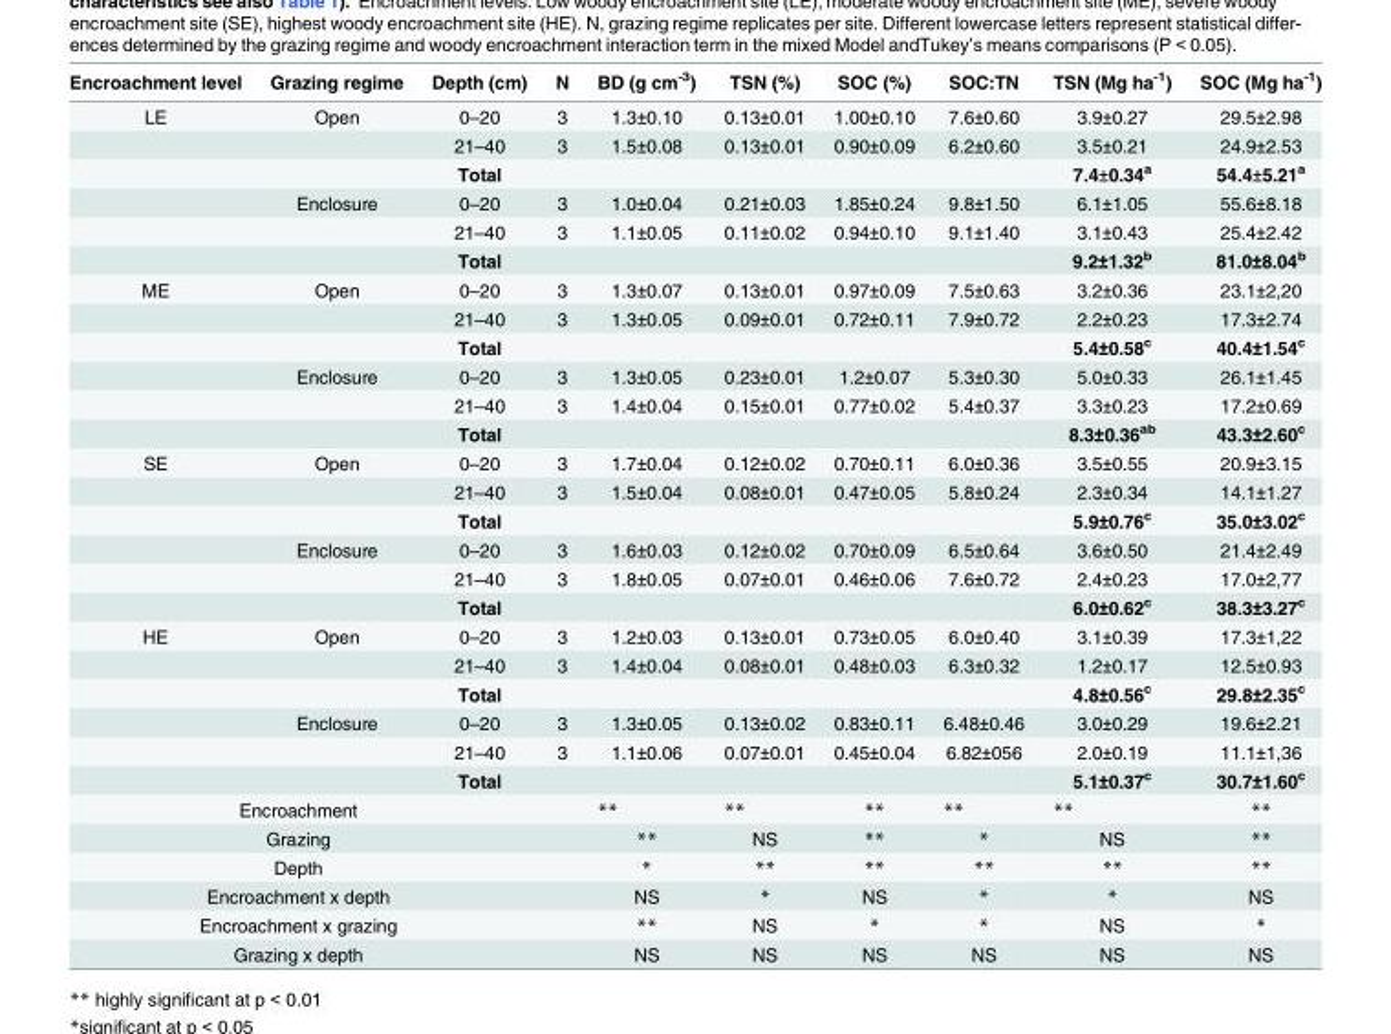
<table><thead><tr><td>Encroachment level</td><td>Grazing regime</td><td>Depth (cm)</td><td>N</td><td>BD (g cm<sup>-3</sup>)</td><td>TSN (%)</td><td>SOC (%)</td><td>SOC:TN</td><td>TSN (Mg ha<sup>-1</sup>)</td><td>SOC (Mg ha<sup>-1</sup>)</td></tr></thead><tbody><tr><td rowspan="6">LE</td><td>Open</td><td>0–20</td><td>3</td><td>1.3±0.10</td><td>0.13±0.01</td><td>1.00±0.10</td><td>7.6±0.60</td><td>3.9±0.27</td><td>29.5±2.98</td></tr><tr><td></td><td>21–40</td><td>3</td><td>1.5±0.08</td><td>0.13±0.01</td><td>0.90±0.09</td><td>6.2±0.60</td><td>3.5±0.21</td><td>24.9±2.53</td></tr><tr><td></td><td>Total</td><td></td><td></td><td></td><td></td><td></td><td>7.4±0.34<sup>a</sup></td><td>54.4±5.21<sup>a</sup></td></tr><tr><td>Enclosure</td><td>0–20</td><td>3</td><td>1.0±0.04</td><td>0.21±0.03</td><td>1.85±0.24</td><td>9.8±1.50</td><td>6.1±1.05</td><td>55.6±8.18</td></tr><tr><td></td><td>21–40</td><td>3</td><td>1.1±0.05</td><td>0.11±0.02</td><td>0.94±0.10</td><td>9.1±1.40</td><td>3.1±0.43</td><td>25.4±2.42</td></tr><tr><td></td><td>Total</td><td></td><td></td><td></td><td></td><td></td><td>9.2±1.32<sup>b</sup></td><td>81.0±8.04<sup>b</sup></td></tr><tr><td rowspan="6">ME</td><td>Open</td><td>0–20</td><td>3</td><td>1.3±0.07</td><td>0.13±0.01</td><td>0.97±0.09</td><td>7.5±0.63</td><td>3.2±0.36</td><td>23.1±2,20</td></tr><tr><td></td><td>21–40</td><td>3</td><td>1.3±0.05</td><td>0.09±0.01</td><td>0.72±0.11</td><td>7.9±0.72</td><td>2.2±0.23</td><td>17.3±2.74</td></tr><tr><td></td><td>Total</td><td></td><td></td><td></td><td></td><td></td><td>5.4±0.58<sup>c</sup></td><td>40.4±1.54<sup>c</sup></td></tr><tr><td>Enclosure</td><td>0–20</td><td>3</td><td>1.3±0.05</td><td>0.23±0.01</td><td>1.2±0.07</td><td>5.3±0.30</td><td>5.0±0.33</td><td>26.1±1.45</td></tr><tr><td></td><td>21–40</td><td>3</td><td>1.4±0.04</td><td>0.15±0.01</td><td>0.77±0.02</td><td>5.4±0.37</td><td>3.3±0.23</td><td>17.2±0.69</td></tr><tr><td></td><td>Total</td><td></td><td></td><td></td><td></td><td></td><td>8.3±0.36<sup>ab</sup></td><td>43.3±2.60<sup>c</sup></td></tr><tr><td rowspan="6">SE</td><td>Open</td><td>0–20</td><td>3</td><td>1.7±0.04</td><td>0.12±0.02</td><td>0.70±0.11</td><td>6.0±0.36</td><td>3.5±0.55</td><td>20.9±3.15</td></tr><tr><td></td><td>21–40</td><td>3</td><td>1.5±0.04</td><td>0.08±0.01</td><td>0.47±0.05</td><td>5.8±0.24</td><td>2.3±0.34</td><td>14.1±1.27</td></tr><tr><td></td><td>Total</td><td></td><td></td><td></td><td></td><td></td><td>5.9±0.76<sup>c</sup></td><td>35.0±3.02<sup>c</sup></td></tr><tr><td>Enclosure</td><td>0–20</td><td>3</td><td>1.6±0.03</td><td>0.12±0.02</td><td>0.70±0.09</td><td>6.5±0.64</td><td>3.6±0.50</td><td>21.4±2.49</td></tr><tr><td></td><td>21–40</td><td>3</td><td>1.8±0.05</td><td>0.07±0.01</td><td>0.46±0.06</td><td>7.6±0.72</td><td>2.4±0.23</td><td>17.0±2,77</td></tr><tr><td></td><td>Total</td><td></td><td></td><td></td><td></td><td></td><td>6.0±0.62<sup>c</sup></td><td>38.3±3.27<sup>c</sup></td></tr><tr><td rowspan="6">HE</td><td>Open</td><td>0–20</td><td>3</td><td>1.2±0.03</td><td>0.13±0.01</td><td>0.73±0.05</td><td>6.0±0.40</td><td>3.1±0.39</td><td>17.3±1,22</td></tr><tr><td></td><td>21–40</td><td>3</td><td>1.4±0.04</td><td>0.08±0.01</td><td>0.48±0.03</td><td>6.3±0.32</td><td>1.2±0.17</td><td>12.5±0.93</td></tr><tr><td></td><td>Total</td><td></td><td></td><td></td><td></td><td></td><td>4.8±0.56<sup>c</sup></td><td>29.8±2.35<sup>c</sup></td></tr><tr><td>Enclosure</td><td>0–20</td><td>3</td><td>1.3±0.05</td><td>0.13±0.02</td><td>0.83±0.11</td><td>6.48±0.46</td><td>3.0±0.29</td><td>19.6±2.21</td></tr><tr><td></td><td>21–40</td><td>3</td><td>1.1±0.06</td><td>0.07±0.01</td><td>0.45±0.04</td><td>6.82±056</td><td>2.0±0.19</td><td>11.1±1,36</td></tr><tr><td></td><td>Total</td><td></td><td></td><td></td><td></td><td></td><td>5.1±0.37<sup>c</sup></td><td>30.7±1.60<sup>c</sup></td></tr><tr><td colspan="3">Encroachment</td><td></td><td>**</td><td>**</td><td>**</td><td>**</td><td>**</td><td>**</td></tr><tr><td colspan="3">Grazing</td><td></td><td>**</td><td>NS</td><td>**</td><td>*</td><td>NS</td><td>**</td></tr><tr><td colspan="3">Depth</td><td></td><td>*</td><td>**</td><td>**</td><td>**</td><td>**</td><td>**</td></tr><tr><td colspan="3">Encroachment x depth</td><td></td><td>NS</td><td>*</td><td>NS</td><td>*</td><td>*</td><td>NS</td></tr><tr><td colspan="3">Encroachment x grazing</td><td></td><td>**</td><td>NS</td><td>*</td><td>*</td><td>NS</td><td>*</td></tr><tr><td colspan="3">Grazing x depth</td><td></td><td>NS</td><td>NS</td><td>NS</td><td>NS</td><td>NS</td><td>NS</td></tr></tbody></table>